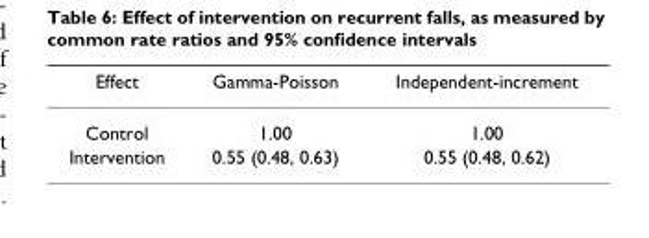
<table><thead><tr><td>Effect</td><td>Gamma-Poisson</td><td>Independent-increment</td></tr></thead><tbody><tr><td>Control</td><td>1.00</td><td>1.00</td></tr><tr><td>Intervention</td><td>0.55 (0.48, 0.63)</td><td>0.55 (0.48, 0.62)</td></tr></tbody></table>